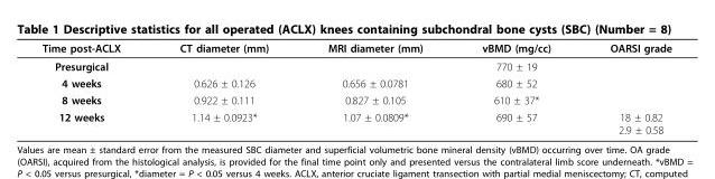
<table><thead><tr><td>Time post-ACLX</td><td>CT diameter (mm)</td><td>MRI diameter (mm)</td><td>vBMD (mg/cc)</td><td>OARSI grade</td></tr></thead><tbody><tr><td>Presurgical</td><td></td><td></td><td>770 ± 19</td><td></td></tr><tr><td>4 weeks</td><td>0.626 ± 0.126</td><td>0.656 ± 0.0781</td><td>680 ± 52</td><td></td></tr><tr><td>8 weeks</td><td>0.922 ± 0.111</td><td>0.827 ± 0.105</td><td>610 ± 37*</td><td></td></tr><tr><td>12 weeks</td><td>1.14 ± 0.0923*</td><td>1.07 ± 0.0809*</td><td>690 ± 57</td><td>18 ± 0.82 2.9 ± 0.58</td></tr></tbody></table>